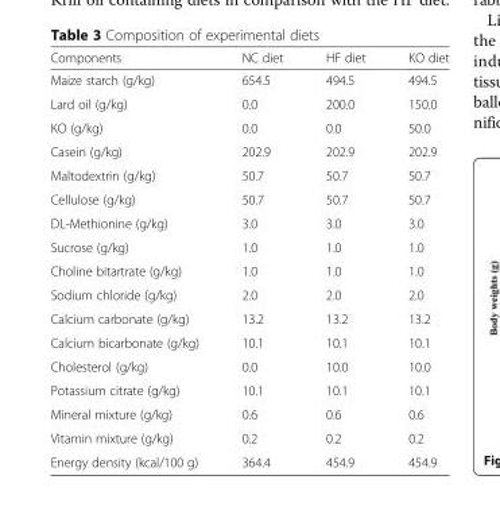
<table><thead><tr><td>Components</td><td>NC diet</td><td>HF diet</td><td>KO diet</td></tr></thead><tbody><tr><td>Maize starch (g/kg)</td><td>654.5</td><td>494.5</td><td>494.5</td></tr><tr><td>Lard oil (g/kg)</td><td>0.0</td><td>200.0</td><td>150.0</td></tr><tr><td>KO (g/kg)</td><td>0.0</td><td>0.0</td><td>50.0</td></tr><tr><td>Casein (g/kg)</td><td>202.9</td><td>202.9</td><td>202.9</td></tr><tr><td>Maltodextrin (g/kg)</td><td>50.7</td><td>50.7</td><td>50.7</td></tr><tr><td>Cellulose (g/kg)</td><td>50.7</td><td>50.7</td><td>50.7</td></tr><tr><td>DL-Methionine (g/kg)</td><td>3.0</td><td>3.0</td><td>3.0</td></tr><tr><td>Sucrose (g/kg)</td><td>1.0</td><td>1.0</td><td>1.0</td></tr><tr><td>Choline bitartrate (g/kg)</td><td>1.0</td><td>1.0</td><td>1.0</td></tr><tr><td>Sodium chloride (g/kg)</td><td>2.0</td><td>2.0</td><td>2.0</td></tr><tr><td>Calcium carbonate (g/kg)</td><td>13.2</td><td>13.2</td><td>13.2</td></tr><tr><td>Calcium bicarbonate (g/kg)</td><td>10.1</td><td>10.1</td><td>10.1</td></tr><tr><td>Cholesterol (g/kg)</td><td>0.0</td><td>10.0</td><td>10.0</td></tr><tr><td>Potassium citrate (g/kg)</td><td>10.1</td><td>10.1</td><td>10.1</td></tr><tr><td>Mineral mixture (g/kg)</td><td>0.6</td><td>0.6</td><td>0.6</td></tr><tr><td>Vitamin mixture (g/kg)</td><td>0.2</td><td>0.2</td><td>0.2</td></tr><tr><td>Energy density (kcal/100 g)</td><td>364.4</td><td>454.9</td><td>454.9</td></tr></tbody></table>